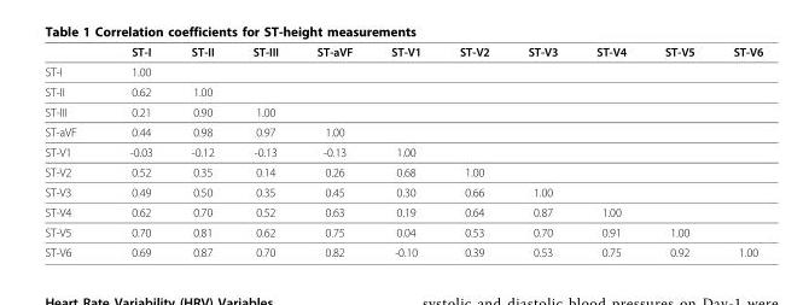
<table><thead><tr><td></td><td>ST-I</td><td>ST-II</td><td>ST-III</td><td>ST-aVF</td><td>ST-V1</td><td>ST-V2</td><td>ST-V3</td><td>ST-V4</td><td>ST-V5</td><td>ST-V6</td></tr></thead><tbody><tr><td>ST-I</td><td>1.00</td><td></td><td></td><td></td><td></td><td></td><td></td><td></td><td></td><td></td></tr><tr><td>ST-II</td><td>0.62</td><td>1.00</td><td></td><td></td><td></td><td></td><td></td><td></td><td></td><td></td></tr><tr><td>ST-III</td><td>0.21</td><td>0.90</td><td>1.00</td><td></td><td></td><td></td><td></td><td></td><td></td><td></td></tr><tr><td>ST-aVF</td><td>0.44</td><td>0.98</td><td>0.97</td><td>1.00</td><td></td><td></td><td></td><td></td><td></td><td></td></tr><tr><td>ST-V1</td><td>-0.03</td><td>-0.12</td><td>-0.13</td><td>-0.13</td><td>1.00</td><td></td><td></td><td></td><td></td><td></td></tr><tr><td>ST-V2</td><td>0.52</td><td>0.35</td><td>0.14</td><td>0.26</td><td>0.68</td><td>1.00</td><td></td><td></td><td></td><td></td></tr><tr><td>ST-V3</td><td>0.49</td><td>0.50</td><td>0.35</td><td>0.45</td><td>0.30</td><td>0.66</td><td>1.00</td><td></td><td></td><td></td></tr><tr><td>ST-V4</td><td>0.62</td><td>0.70</td><td>0.52</td><td>0.63</td><td>0.19</td><td>0.64</td><td>0.87</td><td>1.00</td><td></td><td></td></tr><tr><td>ST-V5</td><td>0.70</td><td>0.81</td><td>0.62</td><td>0.75</td><td>0.04</td><td>0.53</td><td>0.70</td><td>0.91</td><td>1.00</td><td></td></tr><tr><td>ST-V6</td><td>0.69</td><td>0.87</td><td>0.70</td><td>0.82</td><td>-0.10</td><td>0.39</td><td>0.53</td><td>0.75</td><td>0.92</td><td>1.00</td></tr></tbody></table>